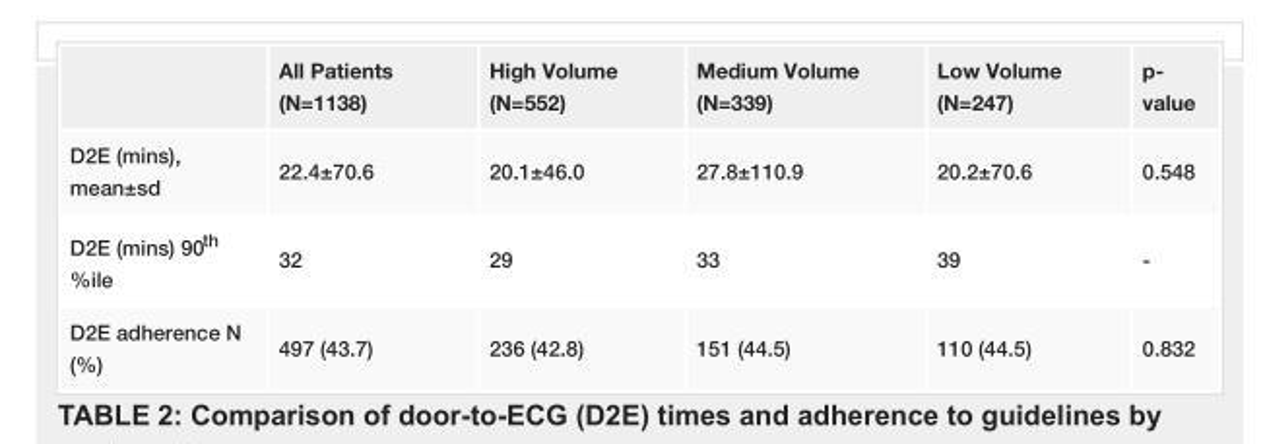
<table><thead><tr><td></td><td>All Patients (N=1138)</td><td>High Volume (N=552)</td><td>Medium Volume (N=339)</td><td>Low Volume (N=247)</td><td>p- value</td></tr></thead><tbody><tr><td>D2E (mins), mean±sd</td><td>22.4±70.6</td><td>20.1±46.0</td><td>27.8±110.9</td><td>20.2±70.6</td><td>0.548</td></tr><tr><td>D2E (mins) 90<sup>th</sup> %ile</td><td>32</td><td>29</td><td>33</td><td>39</td><td>-</td></tr><tr><td>D2E adherence N (%)</td><td>497 (43.7)</td><td>236 (42.8)</td><td>151 (44.5)</td><td>110 (44.5)</td><td>0.832</td></tr></tbody></table>